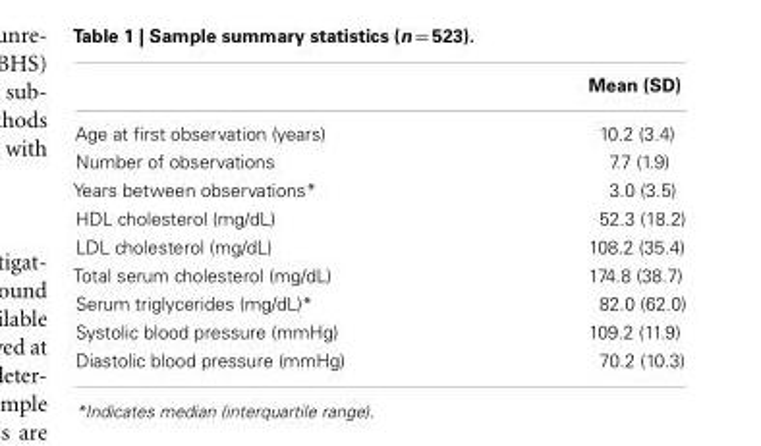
<table><thead><tr><td></td><td>Mean (SD)</td></tr></thead><tbody><tr><td>Age at first observation (years)</td><td>10.2 (3.4)</td></tr><tr><td>Number of observations</td><td>7.7 (1.9)</td></tr><tr><td>Years between observations*</td><td>3.0 (3.5)</td></tr><tr><td>HDL cholesterol (mg/dL)</td><td>52.3 (18.2)</td></tr><tr><td>LDL cholesterol (mg/dL)</td><td>108.2 (35.4)</td></tr><tr><td>Total serum cholesterol (mg/dL)</td><td>174.8 (38.7)</td></tr><tr><td>Serum triglycerides (mg/dL)*</td><td>82.0 (62.0)</td></tr><tr><td>Systolic blood pressure (mmHg)</td><td>109.2 (11.9)</td></tr><tr><td>Diastolic blood pressure (mmHg)</td><td>70.2 (10.3)</td></tr></tbody></table>